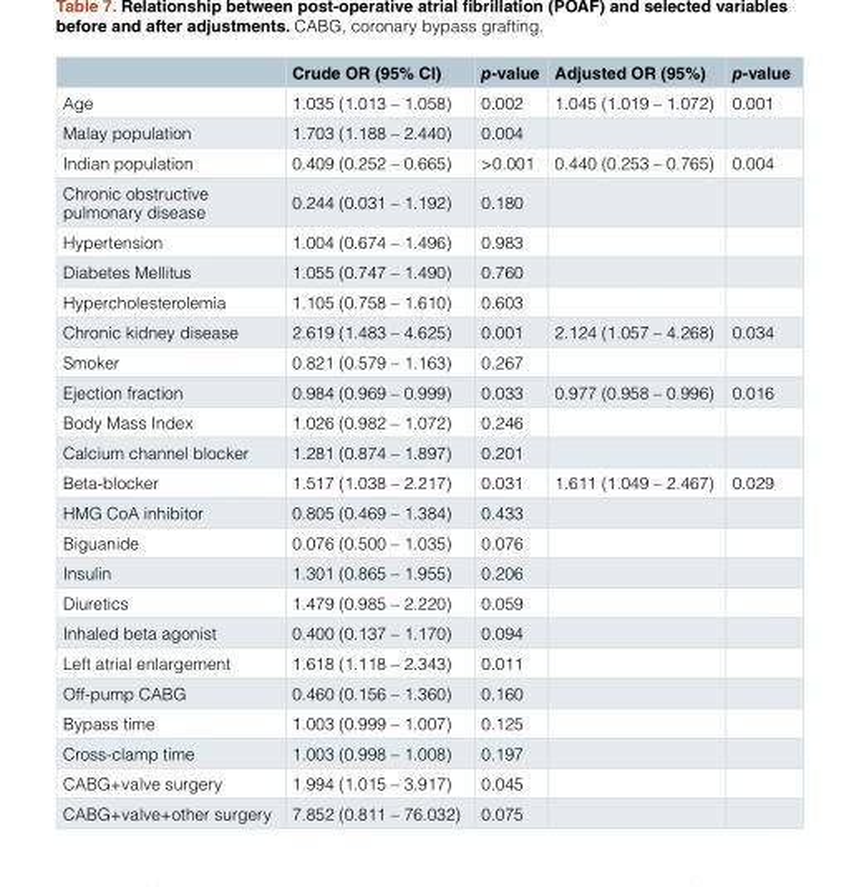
<table><thead><tr><td></td><td>Crude OR (95% CI)</td><td>p-value</td><td>Adjusted OR (95%)</td><td>p-value</td></tr></thead><tbody><tr><td>Age</td><td>1.035 (1.013 – 1.058)</td><td>0.002</td><td>1.045 (1.019 – 1.072)</td><td>0.001</td></tr><tr><td>Malay population</td><td>1.703 (1.188 – 2.440)</td><td>0.004</td><td></td><td></td></tr><tr><td>Indian population</td><td>0.409 (0.252 – 0.665)</td><td>&gt;0.001</td><td>0.440 (0.253 – 0.765)</td><td>0.004</td></tr><tr><td>Chronic obstructive pulmonary disease</td><td>0.244 (0.031 – 1.192)</td><td>0.180</td><td></td><td></td></tr><tr><td>Hypertension</td><td>1.004 (0.674 – 1.496)</td><td>0.983</td><td></td><td></td></tr><tr><td>Diabetes Mellitus</td><td>1.055 (0.747 – 1.490)</td><td>0.760</td><td></td><td></td></tr><tr><td>Hypercholesterolemia</td><td>1.105 (0.758 – 1.610)</td><td>0.603</td><td></td><td></td></tr><tr><td>Chronic kidney disease</td><td>2.619 (1.483 – 4.625)</td><td>0.001</td><td>2.124 (1.057 – 4.268)</td><td>0.034</td></tr><tr><td>Smoker</td><td>0.821 (0.579 – 1.163)</td><td>0.267</td><td></td><td></td></tr><tr><td>Ejection fraction</td><td>0.984 (0.969 – 0.999)</td><td>0.033</td><td>0.977 (0.958 – 0.996)</td><td>0.016</td></tr><tr><td>Body Mass Index</td><td>1.026 (0.982 – 1.072)</td><td>0.246</td><td></td><td></td></tr><tr><td>Calcium channel blocker</td><td>1.281 (0.874 – 1.897)</td><td>0.201</td><td></td><td></td></tr><tr><td>Beta-blocker</td><td>1.517 (1.038 – 2.217)</td><td>0.031</td><td>1.611 (1.049 – 2.467)</td><td>0.029</td></tr><tr><td>HMG CoA inhibitor</td><td>0.805 (0.469 – 1.384)</td><td>0.433</td><td></td><td></td></tr><tr><td>Biguanide</td><td>0.076 (0.500 – 1.035)</td><td>0.076</td><td></td><td></td></tr><tr><td>Insulin</td><td>1.301 (0.865 – 1.955)</td><td>0.206</td><td></td><td></td></tr><tr><td>Diuretics</td><td>1.479 (0.985 – 2.220)</td><td>0.059</td><td></td><td></td></tr><tr><td>Inhaled beta agonist</td><td>0.400 (0.137 – 1.170)</td><td>0.094</td><td></td><td></td></tr><tr><td>Left atrial enlargement</td><td>1.618 (1.118 – 2.343)</td><td>0.011</td><td></td><td></td></tr><tr><td>Off-pump CABG</td><td>0.460 (0.156 – 1.360)</td><td>0.160</td><td></td><td></td></tr><tr><td>Bypass time</td><td>1.003 (0.999 – 1.007)</td><td>0.125</td><td></td><td></td></tr><tr><td>Cross-clamp time</td><td>1.003 (0.998 – 1.008)</td><td>0.197</td><td></td><td></td></tr><tr><td>CABG+valve surgery</td><td>1.994 (1.015 – 3.917)</td><td>0.045</td><td></td><td></td></tr><tr><td>CABG+valve+other surgery</td><td>7.852 (0.811 – 76.032)</td><td>0.075</td><td></td><td></td></tr></tbody></table>